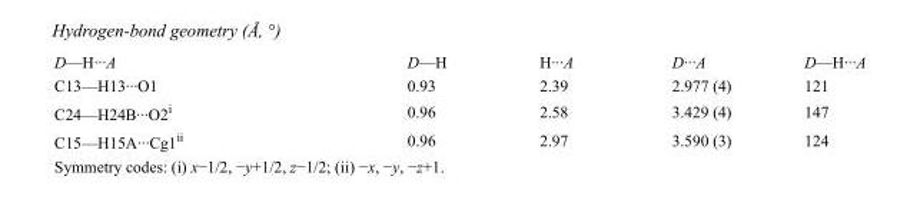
<table><tbody><tr><td>D—H···A</td><td>D—H</td><td>H···A</td><td>D···A</td><td>D—H···A</td></tr><tr><td>C13—H13···O1</td><td>0.93</td><td>2.39</td><td>2.977 (4)</td><td>121</td></tr><tr><td>C24—H24B···O2<sup>i</sup></td><td>0.96</td><td>2.58</td><td>3.429 (4)</td><td>147</td></tr><tr><td>C15—H15A···Cg1<sup>ii</sup></td><td>0.96</td><td>2.97</td><td>3.590 (3)</td><td>124</td></tr></tbody></table>